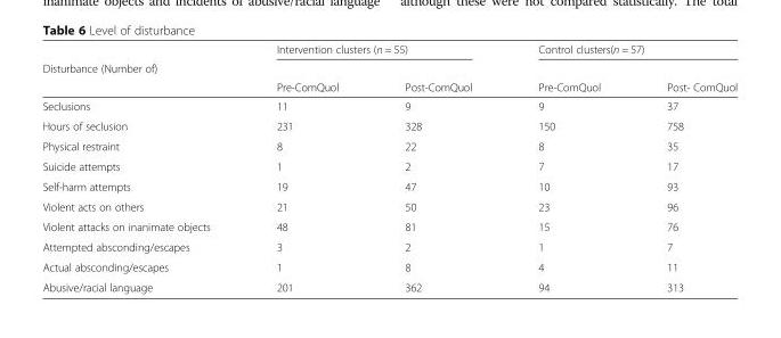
<table><thead><tr><td rowspan="3">Disturbance (Number of)</td><td colspan="2">Intervention clusters (n = 55)</td><td colspan="2">Control clusters(n = 57)</td></tr><tr><td rowspan="2">Pre-ComQuol</td><td rowspan="2">Post-ComQuol</td><td rowspan="2">Pre-ComQuol</td><td rowspan="2">Post- ComQuol</td></tr><tr></tr></thead><tbody><tr><td>Seclusions</td><td>11</td><td>9</td><td>9</td><td>37</td></tr><tr><td>Hours of seclusion</td><td>231</td><td>328</td><td>150</td><td>758</td></tr><tr><td>Physical restraint</td><td>8</td><td>22</td><td>8</td><td>35</td></tr><tr><td>Suicide attempts</td><td>1</td><td>2</td><td>7</td><td>17</td></tr><tr><td>Self-harm attempts</td><td>19</td><td>47</td><td>10</td><td>93</td></tr><tr><td>Violent acts on others</td><td>21</td><td>50</td><td>23</td><td>96</td></tr><tr><td>Violent attacks on inanimate objects</td><td>48</td><td>81</td><td>15</td><td>76</td></tr><tr><td>Attempted absconding/escapes</td><td>3</td><td>2</td><td>1</td><td>7</td></tr><tr><td>Actual absconding/escapes</td><td>1</td><td>8</td><td>4</td><td>11</td></tr><tr><td>Abusive/racial language</td><td>201</td><td>362</td><td>94</td><td>313</td></tr></tbody></table>